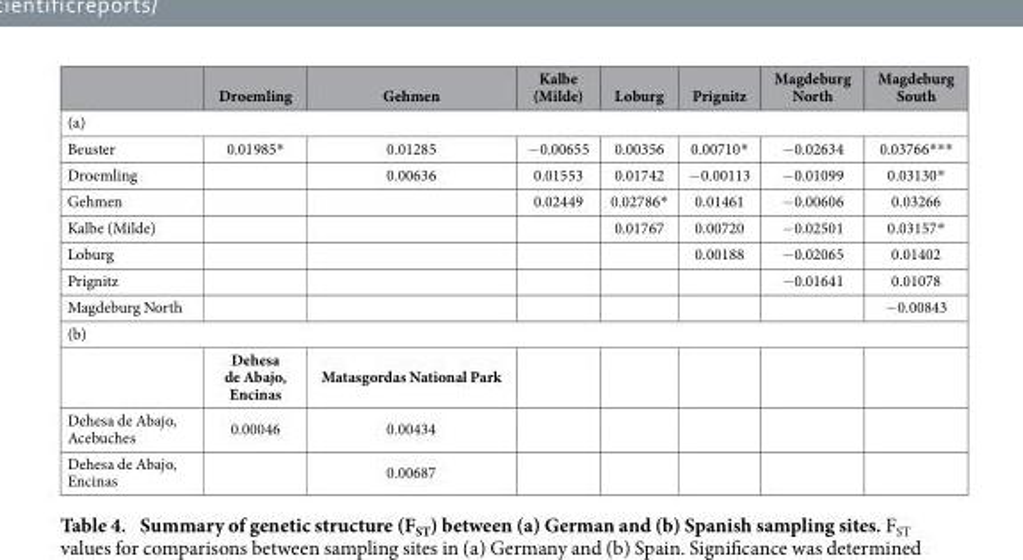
<table><thead><tr><td></td><td>Droemling</td><td>Gehmen</td><td>Kalbe (Milde)</td><td>Loburg</td><td>Prignitz</td><td>Magdeburg North</td><td>Magdeburg South</td></tr></thead><tbody><tr><td colspan="8">(a)</td></tr><tr><td>Beuster</td><td>0.01985*</td><td>0.01285</td><td>− 0.00655</td><td>0.00356</td><td>0.00710*</td><td>− 0.02634</td><td>0.03766* * *</td></tr><tr><td>Droemling</td><td></td><td>0.00636</td><td>0.01553</td><td>0.01742</td><td>− 0.00113</td><td>− 0.01099</td><td>0.03130*</td></tr><tr><td>Gehmen</td><td></td><td></td><td>0.02449</td><td>0.02786*</td><td>0.01461</td><td>− 0.00606</td><td>0.03266</td></tr><tr><td>Kalbe (Milde)</td><td></td><td></td><td></td><td>0.01767</td><td>0.00720</td><td>− 0.02501</td><td>0.03157*</td></tr><tr><td>Loburg</td><td></td><td></td><td></td><td></td><td>0.00188</td><td>− 0.02065</td><td>0.01402</td></tr><tr><td>Prignitz</td><td></td><td></td><td></td><td></td><td></td><td>− 0.01641</td><td>0.01078</td></tr><tr><td>Magdeburg North</td><td></td><td></td><td></td><td></td><td></td><td></td><td>− 0.00843</td></tr><tr><td colspan="8">(b)</td></tr><tr><td></td><td>Dehesa de Abajo, Encinas</td><td>Matasgordas National Park</td><td></td><td></td><td></td><td></td><td></td></tr><tr><td>Dehesa de Abajo, Acebuches</td><td>0.00046</td><td>0.00434</td><td></td><td></td><td></td><td></td><td></td></tr><tr><td>Dehesa de Abajo, Encinas</td><td></td><td>0.00687</td><td></td><td></td><td></td><td></td><td></td></tr></tbody></table>